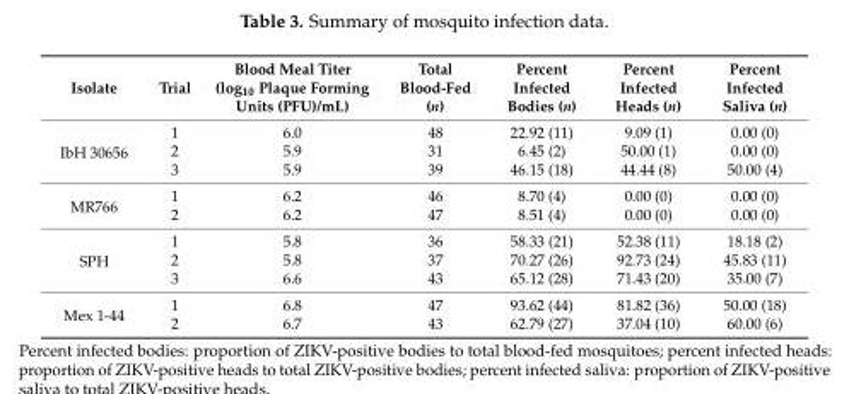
<table><thead><tr><td>Isolate</td><td>Trial</td><td>Blood Meal Titer (log<sub>10</sub> Plaque Forming Units (PFU)/mL)</td><td>Total Blood-Fed (n)</td><td>Percent Infected Bodies (n)</td><td>Percent Infected Heads (n)</td><td>Percent Infected Saliva (n)</td></tr></thead><tbody><tr><td rowspan="3">IbH 30656</td><td>1</td><td>6.0</td><td>48</td><td>22.92 (11)</td><td>9.09 (1)</td><td>0.00 (0)</td></tr><tr><td>2</td><td>5.9</td><td>31</td><td>6.45 (2)</td><td>50.00 (1)</td><td>0.00 (0)</td></tr><tr><td>3</td><td>5.9</td><td>39</td><td>46.15 (18)</td><td>44.44 (8)</td><td>50.00 (4)</td></tr><tr><td rowspan="2">MR766</td><td>1</td><td>6.2</td><td>46</td><td>8.70 (4)</td><td>0.00 (0)</td><td>0.00 (0)</td></tr><tr><td>2</td><td>6.2</td><td>47</td><td>8.51 (4)</td><td>0.00 (0)</td><td>0.00 (0)</td></tr><tr><td rowspan="3">SPH</td><td>1</td><td>5.8</td><td>36</td><td>58.33 (21)</td><td>52.38 (11)</td><td>18.18 (2)</td></tr><tr><td>2</td><td>5.8</td><td>37</td><td>70.27 (26)</td><td>92.73 (24)</td><td>45.83 (11)</td></tr><tr><td>3</td><td>6.6</td><td>43</td><td>65.12 (28)</td><td>71.43 (20)</td><td>35.00 (7)</td></tr><tr><td rowspan="2">Mex 1-44</td><td>1</td><td>6.8</td><td>47</td><td>93.62 (44)</td><td>81.82 (36)</td><td>50.00 (18)</td></tr><tr><td>2</td><td>6.7</td><td>43</td><td>62.79 (27)</td><td>37.04 (10)</td><td>60.00 (6)</td></tr></tbody></table>